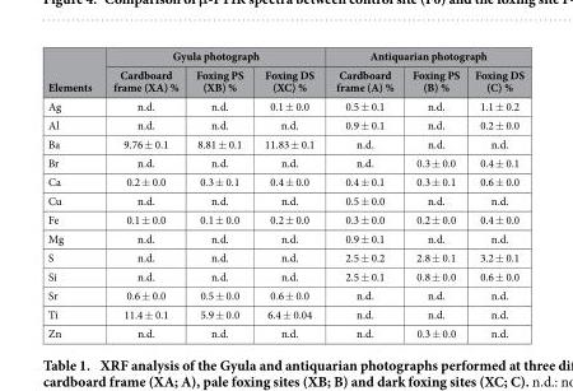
<table><thead><tr><td rowspan="2">Elements</td><td colspan="3">Gyula photograph</td><td colspan="3">Antiquarian photograph</td></tr><tr><td>Cardboard frame (XA) %</td><td>Foxing PS (XB) %</td><td>Foxing DS (XC) %</td><td>Cardboard frame (A) %</td><td>Foxing PS (B) %</td><td>Foxing DS (C) %</td></tr></thead><tbody><tr><td>Ag</td><td>n.d.</td><td>n.d.</td><td>0.1 ± 0.0</td><td>0.5 ± 0.1</td><td>n.d.</td><td>1.1 ± 0.2</td></tr><tr><td>Al</td><td>n.d.</td><td>n.d.</td><td>n.d.</td><td>0.9 ± 0.1</td><td>n.d.</td><td>0.2 ± 0.0</td></tr><tr><td>Ba</td><td>9.76 ± 0.1</td><td>8.81 ± 0.1</td><td>11.83 ± 0.1</td><td>n.d.</td><td>n.d.</td><td>n.d.</td></tr><tr><td>Br</td><td>n.d.</td><td>n.d.</td><td>n.d.</td><td>n.d.</td><td>0.3 ± 0.0</td><td>0.4 ± 0.1</td></tr><tr><td>Ca</td><td>0.2 ± 0.0</td><td>0.3 ± 0.1</td><td>0.4 ± 0.0</td><td>0.4 ± 0.1</td><td>0.3 ± 0.1</td><td>0.6 ± 0.0</td></tr><tr><td>Cu</td><td>n.d.</td><td>n.d.</td><td>n.d.</td><td>0.5 ± 0.0</td><td>n.d.</td><td>n.d.</td></tr><tr><td>Fe</td><td>0.1 ± 0.0</td><td>0.1 ± 0.0</td><td>0.2 ± 0.0</td><td>0.3 ± 0.0</td><td>0.2 ± 0.0</td><td>0.4 ± 0.0</td></tr><tr><td>Mg</td><td>n.d.</td><td>n.d.</td><td>n.d.</td><td>0.9 ± 0.1</td><td>n.d.</td><td>n.d.</td></tr><tr><td>S</td><td>n.d.</td><td>n.d.</td><td>n.d.</td><td>2.5 ± 0.2</td><td>2.8 ± 0.1</td><td>3.2 ± 0.1</td></tr><tr><td>Si</td><td>n.d.</td><td>n.d.</td><td>n.d.</td><td>2.5 ± 0.1</td><td>0.8 ± 0.0</td><td>0.6 ± 0.0</td></tr><tr><td>Sr</td><td>0.6 ± 0.0</td><td>0.5 ± 0.0</td><td>0.6 ± 0.0</td><td>n.d.</td><td>n.d.</td><td>n.d.</td></tr><tr><td>Ti</td><td>11.4 ± 0.1</td><td>5.9 ± 0.0</td><td>6.4 ± 0.04</td><td>n.d.</td><td>n.d.</td><td>n.d.</td></tr><tr><td>Zn</td><td>n.d.</td><td>n.d.</td><td>n.d.</td><td>n.d.</td><td>0.3 ± 0.0</td><td>n.d.</td></tr></tbody></table>